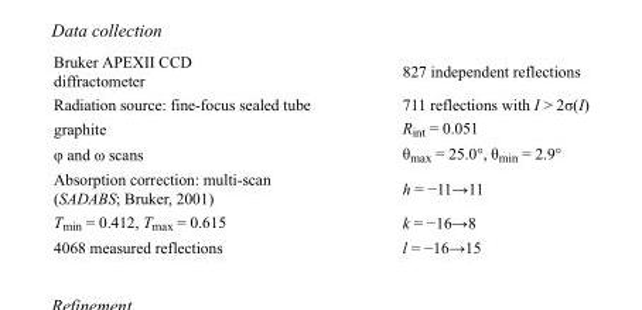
<table><tbody><tr><td>Bruker APEXII CCD diffractometer</td><td>827 independent reflections</td></tr><tr><td>Radiation source: fine-focus sealed tube</td><td>711 reflections with I &gt; 2σ(I)</td></tr><tr><td>graphite</td><td>R<sub>int</sub> = 0.051</td></tr><tr><td>φ and ω scans</td><td>θ<sub>max</sub> = 25.0°, θ<sub>min</sub> = 2.9°</td></tr><tr><td>Absorption correction: multi-scan (SADABS; Bruker, 2001)</td><td>h = −11→11</td></tr><tr><td>T<sub>min</sub> = 0.412, T<sub>max</sub> = 0.615</td><td>k = −16→8</td></tr><tr><td>4068 measured reflections</td><td>l = −16→15</td></tr></tbody></table>